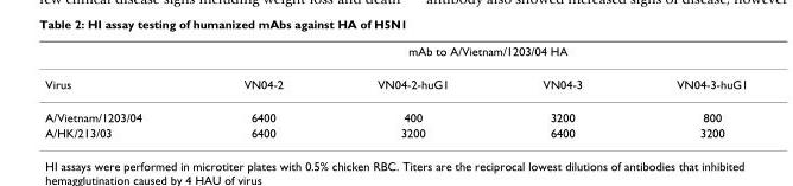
<table><thead><tr><td rowspan="2">Virus</td><td colspan="4">mAb to A/Vietnam/1203/04 HA</td></tr><tr><td>VN04-2</td><td>VN04-2-huG1</td><td>VN04-3</td><td>VN04-3-huG1</td></tr></thead><tbody><tr><td>A/Vietnam/1203/04</td><td>6400</td><td>400</td><td>3200</td><td>800</td></tr><tr><td>A/HK/213/03</td><td>6400</td><td>3200</td><td>6400</td><td>3200</td></tr></tbody></table>